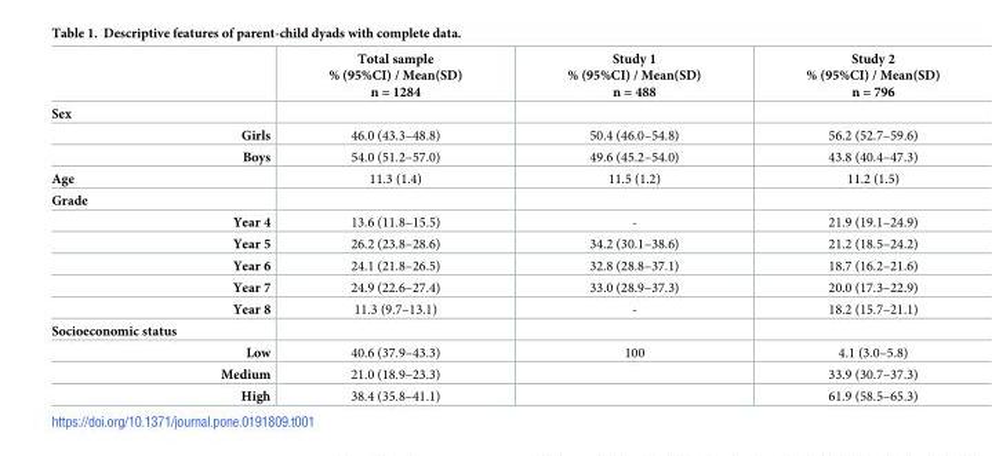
<table><thead><tr><td></td><td>Total sample % (95%CI) / Mean(SD) n = 1284</td><td>Study 1 % (95%CI) / Mean(SD) n = 488</td><td>Study 2 % (95%CI) / Mean(SD) n = 796</td></tr></thead><tbody><tr><td colspan="4">Sex</td></tr><tr><td>Girls</td><td>46.0 (43.3–48.8)</td><td>50.4 (46.0–54.8)</td><td>56.2 (52.7–59.6)</td></tr><tr><td>Boys</td><td>54.0 (51.2–57.0)</td><td>49.6 (45.2–54.0)</td><td>43.8 (40.4–47.3)</td></tr><tr><td>Age</td><td>11.3 (1.4)</td><td>11.5 (1.2)</td><td>11.2 (1.5)</td></tr><tr><td colspan="4">Grade</td></tr><tr><td>Year 4</td><td>13.6 (11.8–15.5)</td><td>-</td><td>21.9 (19.1–24.9)</td></tr><tr><td>Year 5</td><td>26.2 (23.8–28.6)</td><td>34.2 (30.1–38.6)</td><td>21.2 (18.5–24.2)</td></tr><tr><td>Year 6</td><td>24.1 (21.8–26.5)</td><td>32.8 (28.8–37.1)</td><td>18.7 (16.2–21.6)</td></tr><tr><td>Year 7</td><td>24.9 (22.6–27.4)</td><td>33.0 (28.9–37.3)</td><td>20.0 (17.3–22.9)</td></tr><tr><td>Year 8</td><td>11.3 (9.7–13.1)</td><td>-</td><td>18.2 (15.7–21.1)</td></tr><tr><td colspan="4">Socioeconomic status</td></tr><tr><td>Low</td><td>40.6 (37.9–43.3)</td><td>100</td><td>4.1 (3.0–5.8)</td></tr><tr><td>Medium</td><td>21.0 (18.9–23.3)</td><td></td><td>33.9 (30.7–37.3)</td></tr><tr><td>High</td><td>38.4 (35.8–41.1)</td><td></td><td>61.9 (58.5–65.3)</td></tr></tbody></table>